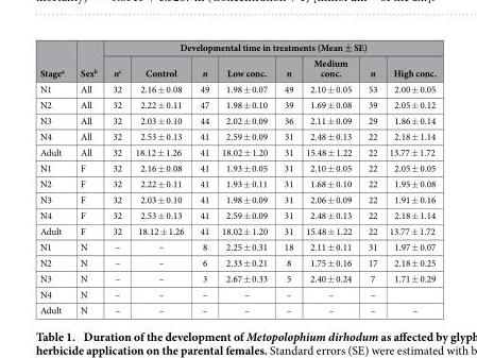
<table><thead><tr><td rowspan="2">Stage<sup>a</sup></td><td rowspan="2">Sex<sup>b</sup></td><td colspan="8">Developmental time in treatments (Mean ± SE)</td></tr><tr><td>n<sup>c</sup></td><td>Control</td><td>n</td><td>Low conc.</td><td>n</td><td>Medium conc.</td><td>n</td><td>High conc.</td></tr></thead><tbody><tr><td>N1</td><td>All</td><td>32</td><td>2.16 ± 0.08</td><td>49</td><td>1.98 ± 0.07</td><td>49</td><td>2.10 ± 0.05</td><td>53</td><td>2.00 ± 0.05</td></tr><tr><td>N2</td><td>All</td><td>32</td><td>2.22 ± 0.11</td><td>47</td><td>1.98 ± 0.10</td><td>39</td><td>1.69 ± 0.08</td><td>39</td><td>2.05 ± 0.12</td></tr><tr><td>N3</td><td>All</td><td>32</td><td>2.03 ± 0.10</td><td>44</td><td>2.02 ± 0.09</td><td>36</td><td>2.11 ± 0.09</td><td>29</td><td>1.86 ± 0.14</td></tr><tr><td>N4</td><td>All</td><td>32</td><td>2.53 ± 0.13</td><td>41</td><td>2.59 ± 0.09</td><td>31</td><td>2.48 ± 0.13</td><td>22</td><td>2.18 ± 1.14</td></tr><tr><td>Adult</td><td>All</td><td>32</td><td>18.12 ± 1.26</td><td>41</td><td>18.02 ± 1.20</td><td>31</td><td>15.48 ± 1.22</td><td>22</td><td>13.77 ± 1.72</td></tr><tr><td>N1</td><td>F</td><td>32</td><td>2.16 ± 0.08</td><td>41</td><td>1.93 ± 0.05</td><td>31</td><td>2.10 ± 0.05</td><td>22</td><td>2.05 ± 0.05</td></tr><tr><td>N2</td><td>F</td><td>32</td><td>2.22 ± 0.11</td><td>41</td><td>1.93 ± 0.11</td><td>31</td><td>1.68 ± 0.10</td><td>22</td><td>1.95 ± 0.08</td></tr><tr><td>N3</td><td>F</td><td>32</td><td>2.03 ± 0.10</td><td>41</td><td>1.98 ± 0.09</td><td>31</td><td>2.06 ± 0.09</td><td>22</td><td>1.91 ± 0.16</td></tr><tr><td>N4</td><td>F</td><td>32</td><td>2.53 ± 0.13</td><td>41</td><td>2.59 ± 0.09</td><td>31</td><td>2.48 ± 0.13</td><td>22</td><td>2.18 ± 1.14</td></tr><tr><td>Adult</td><td>F</td><td>32</td><td>18.12 ± 1.26</td><td>41</td><td>18.02 ± 1.20</td><td>31</td><td>15.48 ± 1.22</td><td>22</td><td>13.77 ± 1.72</td></tr><tr><td>N1</td><td>N</td><td>–</td><td>–</td><td>8</td><td>2.25 ± 0.31</td><td>18</td><td>2.11 ± 0.11</td><td>31</td><td>1.97 ± 0.07</td></tr><tr><td>N2</td><td>N</td><td>–</td><td>–</td><td>6</td><td>2.33 ± 0.21</td><td>8</td><td>1.75 ± 0.16</td><td>17</td><td>2.18 ± 0.25</td></tr><tr><td>N3</td><td>N</td><td>–</td><td>–</td><td>3</td><td>2.67 ± 0.33</td><td>5</td><td>2.40 ± 0.24</td><td>7</td><td>1.71 ± 0.29</td></tr><tr><td>N4</td><td>N</td><td>–</td><td>–</td><td>–</td><td>–</td><td>–</td><td>–</td><td>–</td><td></td></tr><tr><td>Adult</td><td>N</td><td>–</td><td>–</td><td>–</td><td>–</td><td>–</td><td>–</td><td>–</td><td>–</td></tr></tbody></table>